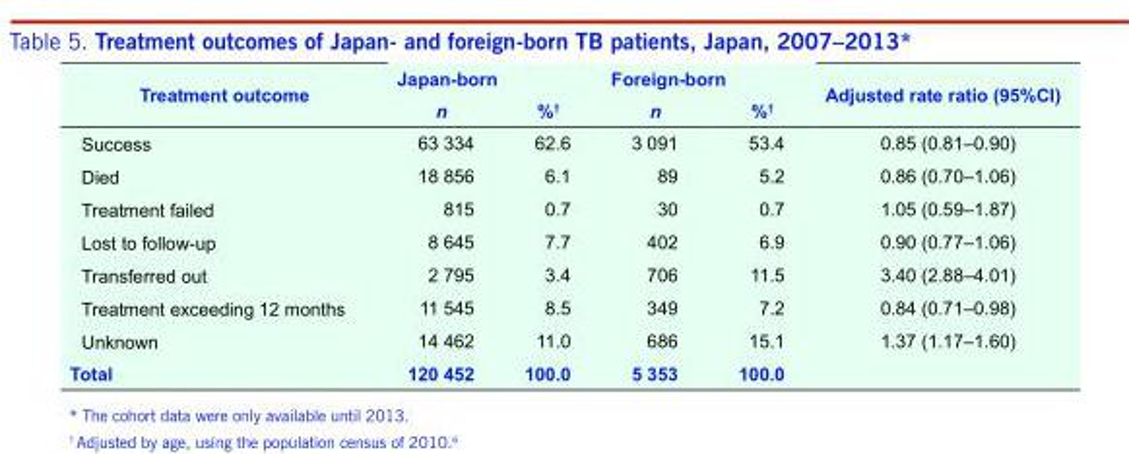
<table><thead><tr><td rowspan="2">Treatment outcome</td><td colspan="2">Japan-born</td><td colspan="2">Foreign-born</td><td rowspan="2">Adjusted rate ratio (95%CI)</td></tr><tr><td>n</td><td>%†</td><td>n</td><td>%†</td></tr></thead><tbody><tr><td>Success</td><td>63 334</td><td>62.6</td><td>3 091</td><td>53.4</td><td>0.85 (0.81–0.90)</td></tr><tr><td>Died</td><td>18 856</td><td>6.1</td><td>89</td><td>5.2</td><td>0.86 (0.70–1.06)</td></tr><tr><td>Treatment failed</td><td>815</td><td>0.7</td><td>30</td><td>0.7</td><td>1.05 (0.59–1.87)</td></tr><tr><td>Lost to follow-up</td><td>8 645</td><td>7.7</td><td>402</td><td>6.9</td><td>0.90 (0.77–1.06)</td></tr><tr><td>Transferred out</td><td>2 795</td><td>3.4</td><td>706</td><td>11.5</td><td>3.40 (2.88–4.01)</td></tr><tr><td>Treatment exceeding 12 months</td><td>11 545</td><td>8.5</td><td>349</td><td>7.2</td><td>0.84 (0.71–0.98)</td></tr><tr><td>Unknown</td><td>14 462</td><td>11.0</td><td>686</td><td>15.1</td><td>1.37 (1.17–1.60)</td></tr><tr><td>Total</td><td>120 452</td><td>100.0</td><td>5 353</td><td>100.0</td><td></td></tr></tbody></table>